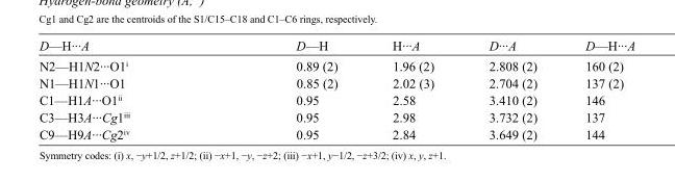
<table><tbody><tr><td>D—H···A</td><td>D—H</td><td>H···A</td><td>D···A</td><td>D—H···A</td></tr><tr><td>N2—H1N2···O1<sup>i</sup></td><td>0.89 (2)</td><td>1.96 (2)</td><td>2.808 (2)</td><td>160 (2)</td></tr><tr><td>N1—H1N1···O1</td><td>0.85 (2)</td><td>2.02 (3)</td><td>2.704 (2)</td><td>137 (2)</td></tr><tr><td>C1—H1A···O1<sup>ii</sup></td><td>0.95</td><td>2.58</td><td>3.410 (2)</td><td>146</td></tr><tr><td>C3—H3A···Cg1<sup>iii</sup></td><td>0.95</td><td>2.98</td><td>3.732 (2)</td><td>137</td></tr><tr><td>C9—H9A···Cg2<sup>iv</sup></td><td>0.95</td><td>2.84</td><td>3.649 (2)</td><td>144</td></tr></tbody></table>